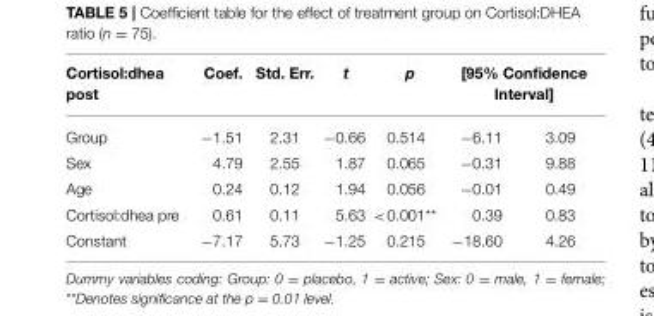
<table><thead><tr><td rowspan="2">Cortisol:dhea post Group</td><td rowspan="2">Coef. −1.51</td><td rowspan="2">Std. Err. 2.31</td><td rowspan="2">t −0.66</td><td rowspan="2">p 0.514</td><td colspan="2">[95% Confidence Interval]</td></tr><tr><td>−6.11</td><td>3.09</td></tr></thead><tbody><tr><td>Sex</td><td>4.79</td><td>2.55</td><td>1.87</td><td>0.065</td><td>−0.31</td><td>9.88</td></tr><tr><td>Age</td><td>0.24</td><td>0.12</td><td>1.94</td><td>0.056</td><td>−0.01</td><td>0.49</td></tr><tr><td>Cortisol:dhea pre</td><td>0.61</td><td>0.11</td><td>5.63</td><td>&lt;0.001**</td><td>0.39</td><td>0.83</td></tr><tr><td>Constant</td><td>−7.17</td><td>5.73</td><td>−1.25</td><td>0.215</td><td>−18.60</td><td>4.26</td></tr></tbody></table>